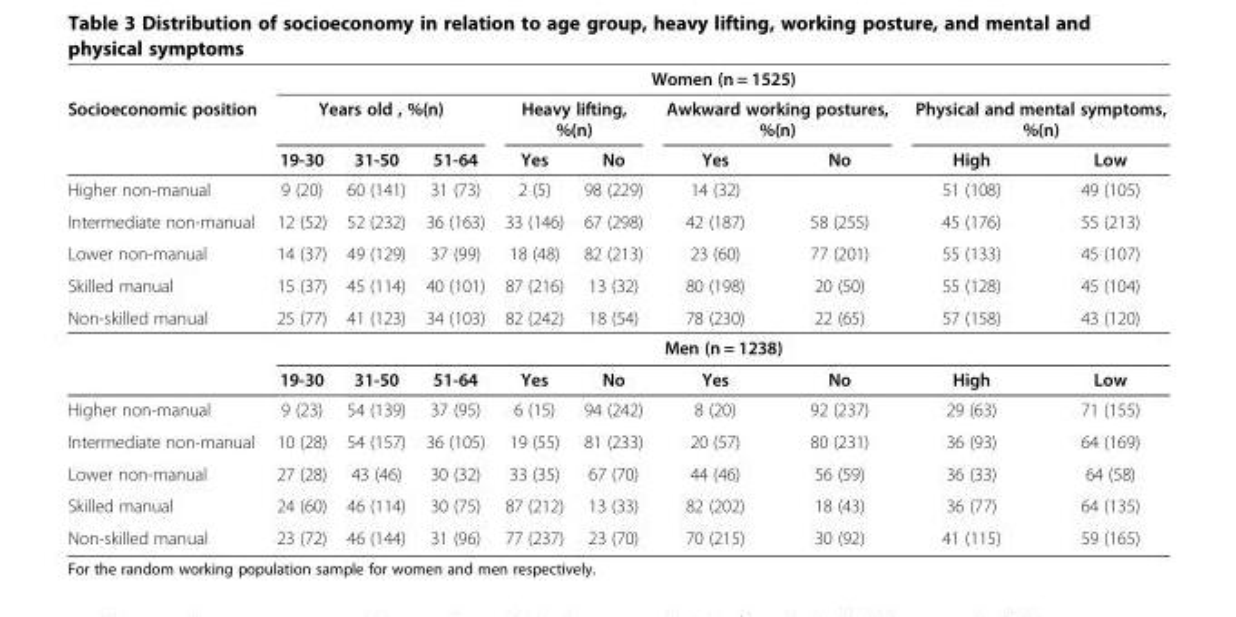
<table><thead><tr><td rowspan="3">Socioeconomic position</td><td colspan="9">Women (n = 1525)</td></tr><tr><td colspan="3">Years old , %(n)</td><td colspan="2">Heavy lifting, %(n)</td><td colspan="2">Awkward working postures, %(n)</td><td colspan="2">Physical and mental symptoms, %(n)</td></tr><tr><td>19-30</td><td>31-50</td><td>51-64</td><td>Yes</td><td>No</td><td>Yes</td><td>No</td><td>High</td><td>Low</td></tr></thead><tbody><tr><td>Higher non-manual</td><td>9 (20)</td><td>60 (141)</td><td>31 (73)</td><td>2 (5)</td><td>98 (229)</td><td>14 (32)</td><td></td><td>51 (108)</td><td>49 (105)</td></tr><tr><td>Intermediate non-manual</td><td>12 (52)</td><td>52 (232)</td><td>36 (163)</td><td>33 (146)</td><td>67 (298)</td><td>42 (187)</td><td>58 (255)</td><td>45 (176)</td><td>55 (213)</td></tr><tr><td>Lower non-manual</td><td>14 (37)</td><td>49 (129)</td><td>37 (99)</td><td>18 (48)</td><td>82 (213)</td><td>23 (60)</td><td>77 (201)</td><td>55 (133)</td><td>45 (107)</td></tr><tr><td>Skilled manual</td><td>15 (37)</td><td>45 (114)</td><td>40 (101)</td><td>87 (216)</td><td>13 (32)</td><td>80 (198)</td><td>20 (50)</td><td>55 (128)</td><td>45 (104)</td></tr><tr><td rowspan="3">Non-skilled manual</td><td>25 (77)</td><td>41 (123)</td><td>34 (103)</td><td>82 (242)</td><td>18 (54)</td><td>78 (230)</td><td>22 (65)</td><td>57 (158)</td><td>43 (120)</td></tr><tr><td colspan="9">Men (n = 1238)</td></tr><tr><td>19-30</td><td>31-50</td><td>51-64</td><td>Yes</td><td>No</td><td>Yes</td><td>No</td><td>High</td><td>Low</td></tr><tr><td>Higher non-manual</td><td>9 (23)</td><td>54 (139)</td><td>37 (95)</td><td>6 (15)</td><td>94 (242)</td><td>8 (20)</td><td>92 (237)</td><td>29 (63)</td><td>71 (155)</td></tr><tr><td>Intermediate non-manual</td><td>10 (28)</td><td>54 (157)</td><td>36 (105)</td><td>19 (55)</td><td>81 (233)</td><td>20 (57)</td><td>80 (231)</td><td>36 (93)</td><td>64 (169)</td></tr><tr><td>Lower non-manual</td><td>27 (28)</td><td>43 (46)</td><td>30 (32)</td><td>33 (35)</td><td>67 (70)</td><td>44 (46)</td><td>56 (59)</td><td>36 (33)</td><td>64 (58)</td></tr><tr><td>Skilled manual</td><td>24 (60)</td><td>46 (114)</td><td>30 (75)</td><td>87 (212)</td><td>13 (33)</td><td>82 (202)</td><td>18 (43)</td><td>36 (77)</td><td>64 (135)</td></tr><tr><td>Non-skilled manual</td><td>23 (72)</td><td>46 (144)</td><td>31 (96)</td><td>77 (237)</td><td>23 (70)</td><td>70 (215)</td><td>30 (92)</td><td>41 (115)</td><td>59 (165)</td></tr></tbody></table>